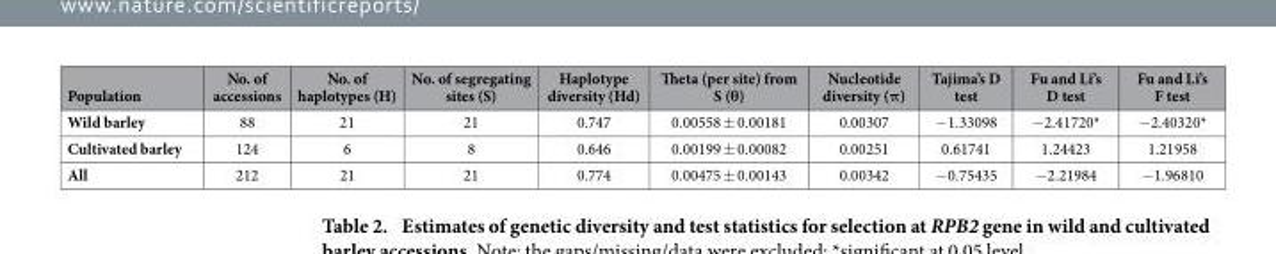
<table><thead><tr><td>Population</td><td>No. of accessions</td><td>No. of haplotypes (H)</td><td>No. of segregating sites (S)</td><td>Haplotype diversity (Hd)</td><td>Theta (per site) from S (θ)</td><td>Nucleotide diversity (π)</td><td>Tajima’s D test</td><td>Fu and Li’s D test</td><td>Fu and Li’s F test</td></tr></thead><tbody><tr><td>Wild barley</td><td>88</td><td>21</td><td>21</td><td>0.747</td><td>0.00558 ± 0.00181</td><td>0.00307</td><td>− 1.33098</td><td>− 2.41720*</td><td>− 2.40320*</td></tr><tr><td>Cultivated barley</td><td>124</td><td>6</td><td>8</td><td>0.646</td><td>0.00199 ± 0.00082</td><td>0.00251</td><td>0.61741</td><td>1.24423</td><td>1.21958</td></tr><tr><td>All</td><td>212</td><td>21</td><td>21</td><td>0.774</td><td>0.00475 ± 0.00143</td><td>0.00342</td><td>− 0.75435</td><td>− 2.21984</td><td>− 1.96810</td></tr></tbody></table>